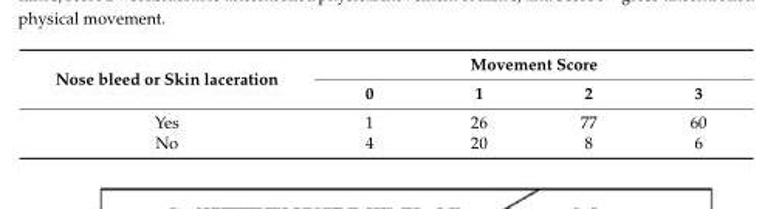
<table><thead><tr><td rowspan="2">Nose bleed or Skin laceration</td><td colspan="4">Movement Score</td></tr><tr><td>0</td><td>1</td><td>2</td><td>3</td></tr></thead><tbody><tr><td>Yes</td><td>1</td><td>26</td><td>77</td><td>60</td></tr><tr><td>No</td><td>4</td><td>20</td><td>8</td><td>6</td></tr></tbody></table>